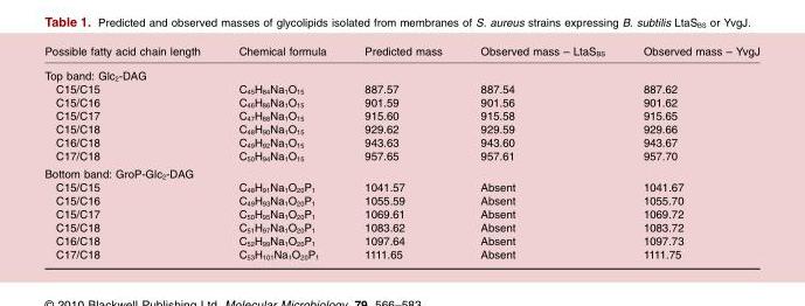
<table><thead><tr><td>Possible fatty acid chain length</td><td>Chemical formula</td><td>Predicted mass</td><td>Observed mass – LtaS<sub>BS</sub></td><td>Observed mass – YvgJ</td></tr></thead><tbody><tr><td colspan="5">Top band: Glc<sub>2</sub>-DAG</td></tr><tr><td>C15/C15</td><td>C<sub>45</sub>H<sub>84</sub>Na<sub>1</sub>O<sub>15</sub></td><td>887.57</td><td>887.54</td><td>887.62</td></tr><tr><td>C15/C16</td><td>C<sub>46</sub>H<sub>86</sub>Na<sub>1</sub>O<sub>15</sub></td><td>901.59</td><td>901.56</td><td>901.62</td></tr><tr><td>C15/C17</td><td>C<sub>47</sub>H<sub>88</sub>Na<sub>1</sub>O<sub>15</sub></td><td>915.60</td><td>915.58</td><td>915.65</td></tr><tr><td>C15/C18</td><td>C<sub>48</sub>H<sub>90</sub>Na<sub>1</sub>O<sub>15</sub></td><td>929.62</td><td>929.59</td><td>929.66</td></tr><tr><td>C16/C18</td><td>C<sub>49</sub>H<sub>92</sub>Na<sub>1</sub>O<sub>15</sub></td><td>943.63</td><td>943.60</td><td>943.67</td></tr><tr><td>C17/C18</td><td>C<sub>50</sub>H<sub>94</sub>Na<sub>1</sub>O<sub>15</sub></td><td>957.65</td><td>957.61</td><td>957.70</td></tr><tr><td colspan="5">Bottom band: GroP-Glc<sub>2</sub>-DAG</td></tr><tr><td>C15/C15</td><td>C<sub>48</sub>H<sub>91</sub>Na<sub>1</sub>O<sub>20</sub>P<sub>1</sub></td><td>1041.57</td><td>Absent</td><td>1041.67</td></tr><tr><td>C15/C16</td><td>C<sub>49</sub>H<sub>93</sub>Na<sub>1</sub>O<sub>20</sub>P<sub>1</sub></td><td>1055.59</td><td>Absent</td><td>1055.70</td></tr><tr><td>C15/C17</td><td>C<sub>50</sub>H<sub>95</sub>Na<sub>1</sub>O<sub>20</sub>P<sub>1</sub></td><td>1069.61</td><td>Absent</td><td>1069.72</td></tr><tr><td>C15/C18</td><td>C<sub>51</sub>H<sub>97</sub>Na<sub>1</sub>O<sub>20</sub>P<sub>1</sub></td><td>1083.62</td><td>Absent</td><td>1083.72</td></tr><tr><td>C16/C18</td><td>C<sub>52</sub>H<sub>99</sub>Na<sub>1</sub>O<sub>20</sub>P<sub>1</sub></td><td>1097.64</td><td>Absent</td><td>1097.73</td></tr><tr><td>C17/C18</td><td>C<sub>53</sub>H<sub>101</sub>Na<sub>1</sub>O<sub>20</sub>P<sub>1</sub></td><td>1111.65</td><td>Absent</td><td>1111.75</td></tr></tbody></table>